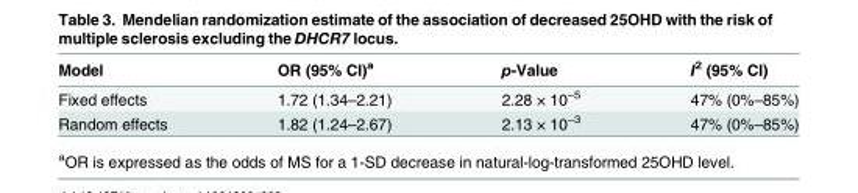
<table><thead><tr><td>Model</td><td>OR (95% CI)<sup>a</sup></td><td>p-Value</td><td>I<sup>2</sup> (95% CI)</td></tr></thead><tbody><tr><td>Fixed effects</td><td>1.72 (1.34–2.21)</td><td>2.28 × 10<sup>−5</sup></td><td>47% (0%–85%)</td></tr><tr><td>Random effects</td><td>1.82 (1.24–2.67)</td><td>2.13 × 10<sup>−3</sup></td><td>47% (0%–85%)</td></tr></tbody></table>